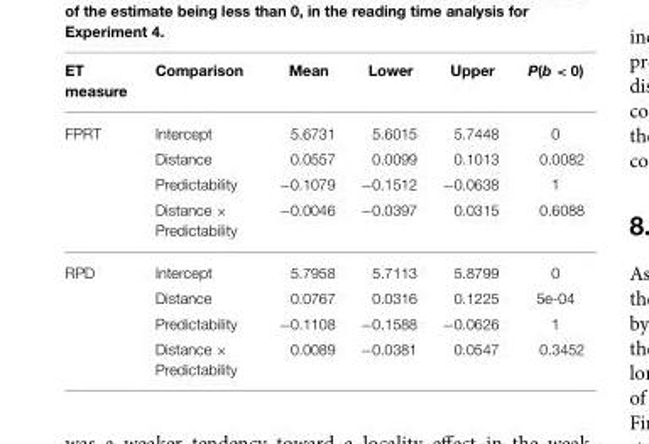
<table><thead><tr><td>ET measure</td><td>Comparison</td><td>Mean</td><td>Lower</td><td>Upper</td><td>P(b &lt; 0)</td></tr></thead><tbody><tr><td rowspan="4">FPRT</td><td>Intercept</td><td>5.6731</td><td>5.6015</td><td>5.7448</td><td>0</td></tr><tr><td>Distance</td><td>0.0557</td><td>0.0099</td><td>0.1013</td><td>0.0082</td></tr><tr><td>Predictability</td><td>−0.1079</td><td>−0.1512</td><td>−0.0638</td><td>1</td></tr><tr><td>Distance × Predictability</td><td>−0.0046</td><td>−0.0397</td><td>0.0315</td><td>0.6088</td></tr><tr><td rowspan="4">RPD</td><td>Intercept</td><td>5.7958</td><td>5.7113</td><td>5.8799</td><td>0</td></tr><tr><td>Distance</td><td>0.0767</td><td>0.0316</td><td>0.1225</td><td>5e-04</td></tr><tr><td>Predictability</td><td>−0.1108</td><td>−0.1588</td><td>−0.0626</td><td>1</td></tr><tr><td>Distance × Predictability</td><td>0.0089</td><td>−0.0381</td><td>0.0547</td><td>0.3452</td></tr></tbody></table>